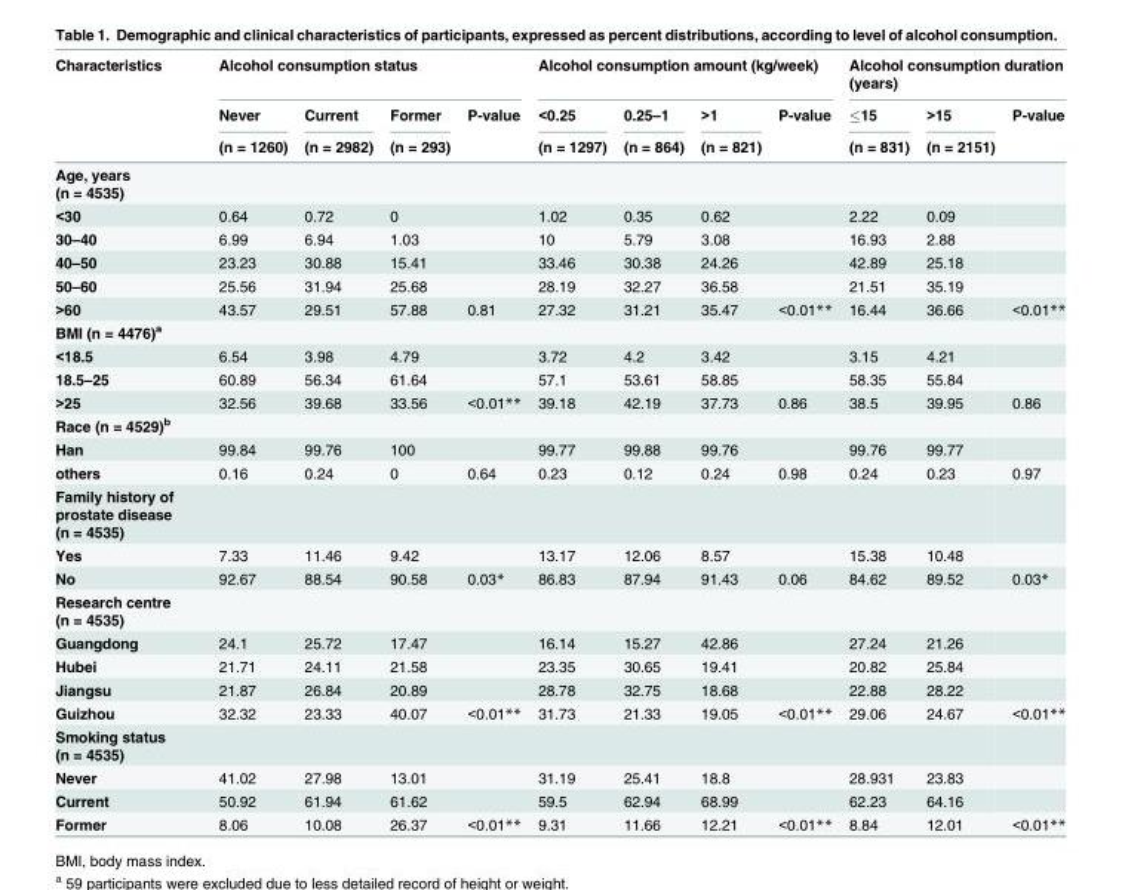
<table><thead><tr><td rowspan="3">Characteristics</td><td colspan="4">Alcohol consumption status</td><td colspan="4">Alcohol consumption amount (kg/week)</td><td colspan="3">Alcohol consumption duration (years)</td></tr><tr><td rowspan="2">Never (n = 1260)</td><td rowspan="2">Current (n = 2982)</td><td rowspan="2">Former (n = 293)</td><td rowspan="2">P-value</td><td rowspan="2">&lt;0.25 (n = 1297)</td><td rowspan="2">0.25–1 (n = 864)</td><td rowspan="2">&gt;1 (n = 821)</td><td rowspan="2">P-value</td><td rowspan="2">≤15 (n = 831)</td><td rowspan="2">&gt;15 (n = 2151)</td><td rowspan="2">P-value</td></tr><tr></tr></thead><tbody><tr><td colspan="12">Age, years (n = 4535)</td></tr><tr><td>&lt;30</td><td>0.64</td><td>0.72</td><td>0</td><td></td><td>1.02</td><td>0.35</td><td>0.62</td><td></td><td>2.22</td><td>0.09</td><td></td></tr><tr><td>30–40</td><td>6.99</td><td>6.94</td><td>1.03</td><td></td><td>10</td><td>5.79</td><td>3.08</td><td></td><td>16.93</td><td>2.88</td><td></td></tr><tr><td>40–50</td><td>23.23</td><td>30.88</td><td>15.41</td><td></td><td>33.46</td><td>30.38</td><td>24.26</td><td></td><td>42.89</td><td>25.18</td><td></td></tr><tr><td>50–60</td><td>25.56</td><td>31.94</td><td>25.68</td><td></td><td>28.19</td><td>32.27</td><td>36.58</td><td></td><td>21.51</td><td>35.19</td><td></td></tr><tr><td>&gt;60</td><td>43.57</td><td>29.51</td><td>57.88</td><td>0.81</td><td>27.32</td><td>31.21</td><td>35.47</td><td>&lt;0.01**</td><td>16.44</td><td>36.66</td><td>&lt;0.01**</td></tr><tr><td colspan="12">BMI (n = 4476)<sup>a</sup></td></tr><tr><td>&lt;18.5</td><td>6.54</td><td>3.98</td><td>4.79</td><td></td><td>3.72</td><td>4.2</td><td>3.42</td><td></td><td>3.15</td><td>4.21</td><td></td></tr><tr><td>18.5–25</td><td>60.89</td><td>56.34</td><td>61.64</td><td></td><td>57.1</td><td>53.61</td><td>58.85</td><td></td><td>58.35</td><td>55.84</td><td></td></tr><tr><td>&gt;25</td><td>32.56</td><td>39.68</td><td>33.56</td><td>&lt;0.01**</td><td>39.18</td><td>42.19</td><td>37.73</td><td>0.86</td><td>38.5</td><td>39.95</td><td>0.86</td></tr><tr><td colspan="12">Race (n = 4529)<sup>b</sup></td></tr><tr><td>Han</td><td>99.84</td><td>99.76</td><td>100</td><td></td><td>99.77</td><td>99.88</td><td>99.76</td><td></td><td>99.76</td><td>99.77</td><td></td></tr><tr><td>others</td><td>0.16</td><td>0.24</td><td>0</td><td>0.64</td><td>0.23</td><td>0.12</td><td>0.24</td><td>0.98</td><td>0.24</td><td>0.23</td><td>0.97</td></tr><tr><td colspan="12">Family history of prostate disease (n = 4535)</td></tr><tr><td>Yes</td><td>7.33</td><td>11.46</td><td>9.42</td><td></td><td>13.17</td><td>12.06</td><td>8.57</td><td></td><td>15.38</td><td>10.48</td><td></td></tr><tr><td>No</td><td>92.67</td><td>88.54</td><td>90.58</td><td>0.03*</td><td>86.83</td><td>87.94</td><td>91.43</td><td>0.06</td><td>84.62</td><td>89.52</td><td>0.03*</td></tr><tr><td colspan="12">Research centre (n = 4535)</td></tr><tr><td>Guangdong</td><td>24.1</td><td>25.72</td><td>17.47</td><td></td><td>16.14</td><td>15.27</td><td>42.86</td><td></td><td>27.24</td><td>21.26</td><td></td></tr><tr><td>Hubei</td><td>21.71</td><td>24.11</td><td>21.58</td><td></td><td>23.35</td><td>30.65</td><td>19.41</td><td></td><td>20.82</td><td>25.84</td><td></td></tr><tr><td>Jiangsu</td><td>21.87</td><td>26.84</td><td>20.89</td><td></td><td>28.78</td><td>32.75</td><td>18.68</td><td></td><td>22.88</td><td>28.22</td><td></td></tr><tr><td>Guizhou</td><td>32.32</td><td>23.33</td><td>40.07</td><td>&lt;0.01**</td><td>31.73</td><td>21.33</td><td>19.05</td><td>&lt;0.01**</td><td>29.06</td><td>24.67</td><td>&lt;0.01**</td></tr><tr><td colspan="12">Smoking status (n = 4535)</td></tr><tr><td>Never</td><td>41.02</td><td>27.98</td><td>13.01</td><td></td><td>31.19</td><td>25.41</td><td>18.8</td><td></td><td>28.931</td><td>23.83</td><td></td></tr><tr><td>Current</td><td>50.92</td><td>61.94</td><td>61.62</td><td></td><td>59.5</td><td>62.94</td><td>68.99</td><td></td><td>62.23</td><td>64.16</td><td></td></tr><tr><td>Former</td><td>8.06</td><td>10.08</td><td>26.37</td><td>&lt;0.01**</td><td>9.31</td><td>11.66</td><td>12.21</td><td>&lt;0.01**</td><td>8.84</td><td>12.01</td><td>&lt;0.01**</td></tr></tbody></table>